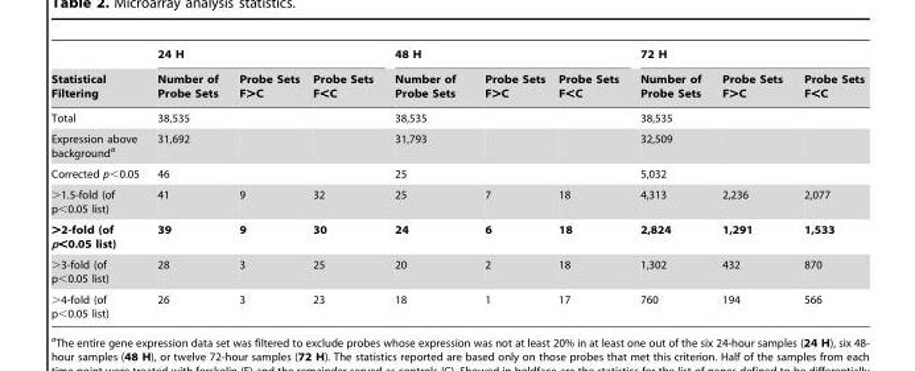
<table><thead><tr><td rowspan="2">Statistical Filtering</td><td colspan="3">24 H</td><td colspan="3">48 H</td><td colspan="3">72 H</td></tr><tr><td>Number of Probe Sets</td><td>Probe Sets F&gt;C</td><td>Probe Sets F&lt;C</td><td>Number of Probe Sets</td><td>Probe Sets F&gt;C</td><td>Probe Sets F&lt;C</td><td>Number of Probe Sets</td><td>Probe Sets F&gt;C</td><td>Probe Sets F&lt;C</td></tr></thead><tbody><tr><td>Total</td><td>38,535</td><td></td><td></td><td>38,535</td><td></td><td></td><td>38,535</td><td></td><td></td></tr><tr><td>Expression above background<sup>a</sup></td><td>31,692</td><td></td><td></td><td>31,793</td><td></td><td></td><td>32,509</td><td></td><td></td></tr><tr><td>Corrected p&lt;0.05</td><td>46</td><td></td><td></td><td>25</td><td></td><td></td><td>5,032</td><td></td><td></td></tr><tr><td>&gt;1.5-fold (of p&lt;0.05 list)</td><td>41</td><td>9</td><td>32</td><td>25</td><td>7</td><td>18</td><td>4,313</td><td>2,236</td><td>2,077</td></tr><tr><td>&gt;2-fold (of p&lt;0.05 list)</td><td>39</td><td>9</td><td>30</td><td>24</td><td>6</td><td>18</td><td>2,824</td><td>1,291</td><td>1,533</td></tr><tr><td>&gt;3-fold (of p&lt;0.05 list)</td><td>28</td><td>3</td><td>25</td><td>20</td><td>2</td><td>18</td><td>1,302</td><td>432</td><td>870</td></tr><tr><td>&gt;4-fold (of p&lt;0.05 list)</td><td>26</td><td>3</td><td>23</td><td>18</td><td>1</td><td>17</td><td>760</td><td>194</td><td>566</td></tr></tbody></table>